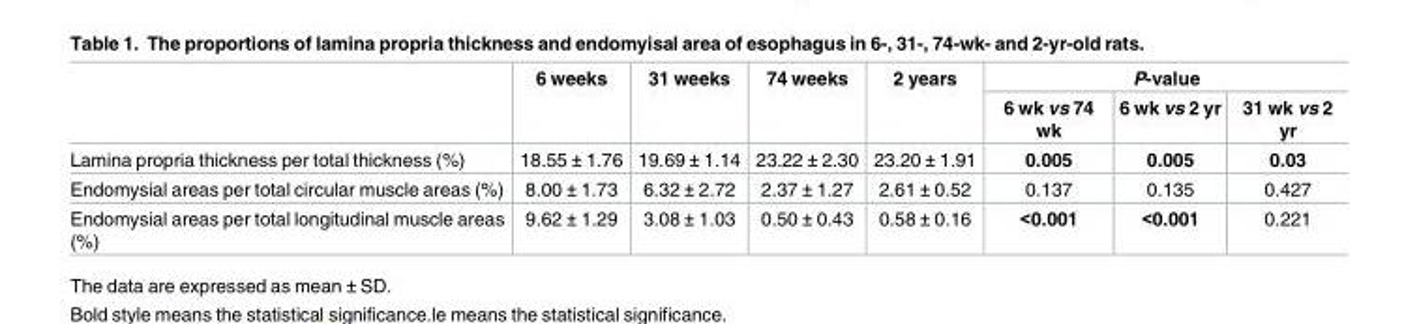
<table><thead><tr><td rowspan="2"></td><td rowspan="2">6 weeks</td><td rowspan="2">31 weeks</td><td rowspan="2">74 weeks</td><td rowspan="2">2 years</td><td colspan="3">P-value</td></tr><tr><td>6 wk vs 74 wk</td><td>6 wk vs 2 yr</td><td>31 wk vs 2 yr</td></tr></thead><tbody><tr><td>Lamina propria thickness per total thickness (%)</td><td>18.55 ± 1.76</td><td>19.69 ± 1.14</td><td>23.22 ± 2.30</td><td>23.20 ± 1.91</td><td>0.005</td><td>0.005</td><td>0.03</td></tr><tr><td>Endomysial areas per total circular muscle areas (%)</td><td>8.00 ± 1.73</td><td>6.32 ± 2.72</td><td>2.37 ± 1.27</td><td>2.61 ± 0.52</td><td>0.137</td><td>0.135</td><td>0.427</td></tr><tr><td>Endomysial areas per total longitudinal muscle areas (%)</td><td>9.62 ± 1.29</td><td>3.08 ± 1.03</td><td>0.50 ± 0.43</td><td>0.58 ± 0.16</td><td>&lt;0.001</td><td>&lt;0.001</td><td>0.221</td></tr></tbody></table>